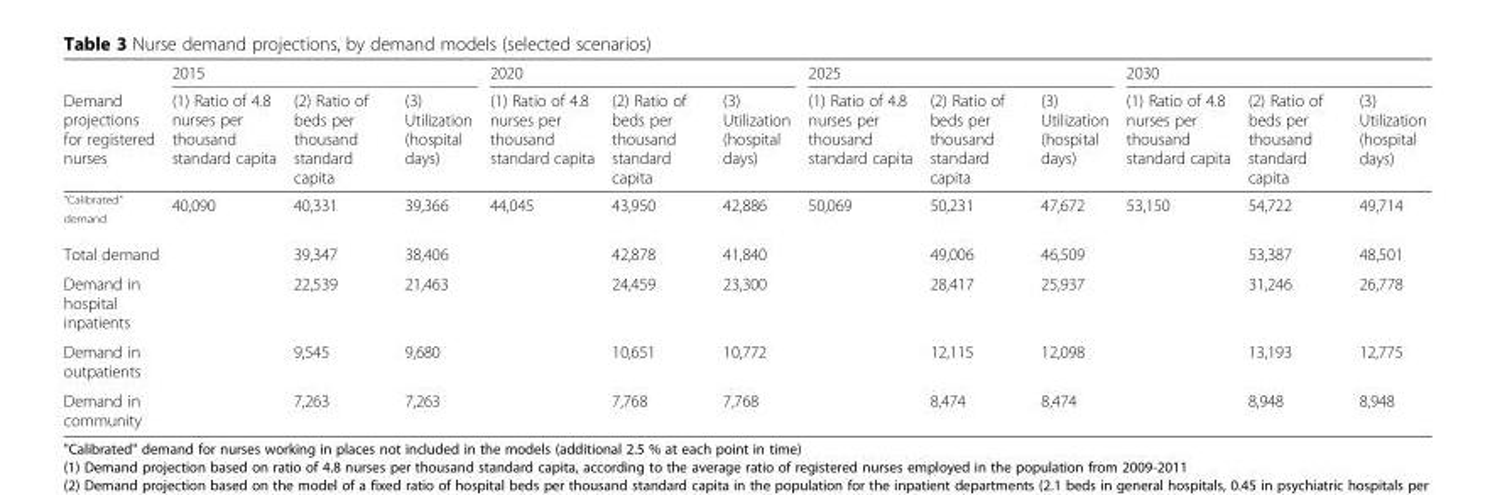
<table><thead><tr><td rowspan="2">Demand projections for registered nurses</td><td colspan="3">2015</td><td colspan="3">2020</td><td colspan="3">2025</td><td colspan="3">2030</td></tr><tr><td>(1) Ratio of 4.8 nurses per thousand standard capita</td><td>(2) Ratio of beds per thousand standard capita</td><td>(3) Utilization (hospital days)</td><td>(1) Ratio of 4.8 nurses per thousand standard capita</td><td>(2) Ratio of beds per thousand standard capita</td><td>(3) Utilization (hospital days)</td><td>(1) Ratio of 4.8 nurses per thousand standard capita</td><td>(2) Ratio of beds per thousand standard capita</td><td>(3) Utilization (hospital days)</td><td>(1) Ratio of 4.8 nurses per thousand standard capita</td><td>(2) Ratio of beds per thousand standard capita</td><td>(3) Utilization (hospital days)</td></tr></thead><tbody><tr><td><sup>&quot;Calibrated&quot; demand</sup></td><td>40,090</td><td>40,331</td><td>39,366</td><td>44,045</td><td>43,950</td><td>42,886</td><td>50,069</td><td>50,231</td><td>47,672</td><td>53,150</td><td>54,722</td><td>49,714</td></tr><tr><td>Total demand</td><td rowspan="4"></td><td>39,347</td><td>38,406</td><td rowspan="4"></td><td>42,878</td><td>41,840</td><td rowspan="4"></td><td>49,006</td><td>46,509</td><td rowspan="4"></td><td>53,387</td><td>48,501</td></tr><tr><td>Demand in hospital inpatients</td><td>22,539</td><td>21,463</td><td>24,459</td><td>23,300</td><td>28,417</td><td>25,937</td><td>31,246</td><td>26,778</td></tr><tr><td>Demand in outpatients</td><td>9,545</td><td>9,680</td><td>10,651</td><td>10,772</td><td>12,115</td><td>12,098</td><td>13,193</td><td>12,775</td></tr><tr><td>Demand in community</td><td>7,263</td><td>7,263</td><td>7,768</td><td>7,768</td><td>8,474</td><td>8,474</td><td>8,948</td><td>8,948</td></tr></tbody></table>